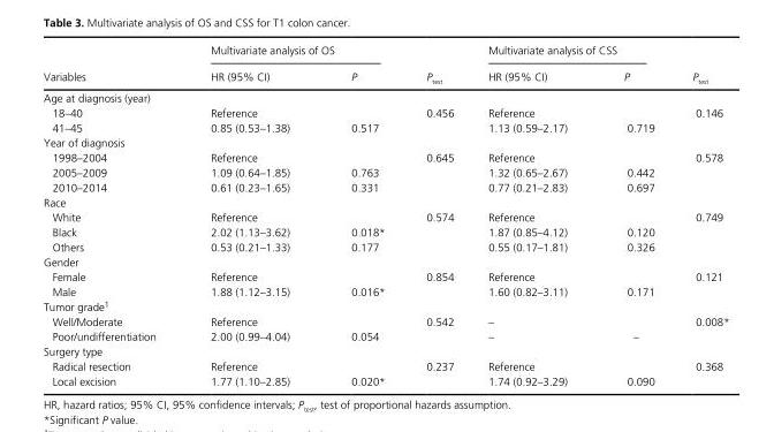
<table><thead><tr><td rowspan="2">Variables</td><td colspan="2">Multivariate analysis of OS</td><td rowspan="2">P<sub>test</sub></td><td colspan="2">Multivariate analysis of CSS</td><td rowspan="2">P<sub>test</sub></td></tr><tr><td>HR (95% CI)</td><td>P</td><td>HR (95% CI)</td><td>P</td></tr></thead><tbody><tr><td colspan="7">Age at diagnosis (year)</td></tr><tr><td>18–40</td><td>Reference</td><td></td><td rowspan="2">0.456</td><td>Reference</td><td></td><td rowspan="2">0.146</td></tr><tr><td>41–45</td><td>0.85 (0.53–1.38)</td><td>0.517</td><td>1.13 (0.59–2.17)</td><td>0.719</td></tr><tr><td colspan="7">Year of diagnosis</td></tr><tr><td>1998–2004</td><td>Reference</td><td></td><td rowspan="3">0.645</td><td>Reference</td><td></td><td rowspan="3">0.578</td></tr><tr><td>2005–2009</td><td>1.09 (0.64–1.85)</td><td>0.763</td><td>1.32 (0.65–2.67)</td><td>0.442</td></tr><tr><td>2010–2014</td><td>0.61 (0.23–1.65)</td><td>0.331</td><td>0.77 (0.21–2.83)</td><td>0.697</td></tr><tr><td colspan="7">Race</td></tr><tr><td>White</td><td>Reference</td><td></td><td rowspan="3">0.574</td><td>Reference</td><td></td><td rowspan="3">0.749</td></tr><tr><td>Black</td><td>2.02 (1.13–3.62)</td><td>0.018*</td><td>1.87 (0.85–4.12)</td><td>0.120</td></tr><tr><td>Others</td><td>0.53 (0.21–1.33)</td><td>0.177</td><td>0.55 (0.17–1.81)</td><td>0.326</td></tr><tr><td colspan="7">Gender</td></tr><tr><td>Female</td><td>Reference</td><td></td><td rowspan="2">0.854</td><td>Reference</td><td></td><td rowspan="2">0.121</td></tr><tr><td>Male</td><td>1.88 (1.12–3.15)</td><td>0.016*</td><td>1.60 (0.82–3.11)</td><td>0.171</td></tr><tr><td colspan="7">Tumor grade1</td></tr><tr><td>Well/Moderate</td><td>Reference</td><td></td><td rowspan="2">0.542</td><td>–</td><td></td><td rowspan="2">0.008*</td></tr><tr><td>Poor/undifferentiation</td><td>2.00 (0.99–4.04)</td><td>0.054</td><td>–</td><td>–</td></tr><tr><td colspan="7">Surgery type</td></tr><tr><td>Radical resection</td><td>Reference</td><td></td><td rowspan="2">0.237</td><td>Reference</td><td></td><td rowspan="2">0.368</td></tr><tr><td>Local excision</td><td>1.77 (1.10–2.85)</td><td>0.020*</td><td>1.74 (0.92–3.29)</td><td>0.090</td></tr></tbody></table>